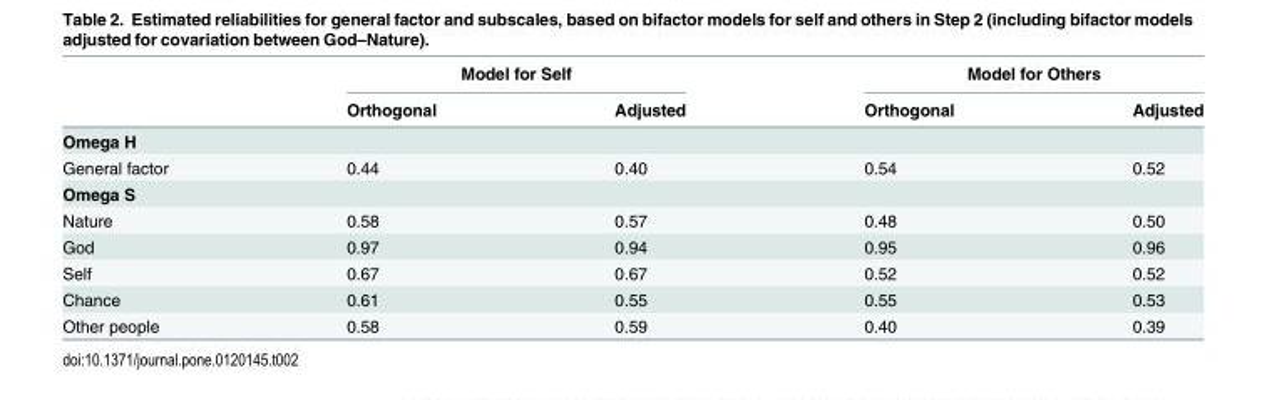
<table><thead><tr><td rowspan="2"></td><td colspan="2">Model for Self</td><td colspan="2">Model for Others</td></tr><tr><td>Orthogonal</td><td>Adjusted</td><td>Orthogonal</td><td>Adjusted</td></tr></thead><tbody><tr><td colspan="5">Omega H</td></tr><tr><td>General factor</td><td>0.44</td><td>0.40</td><td>0.54</td><td>0.52</td></tr><tr><td colspan="5">Omega S</td></tr><tr><td>Nature</td><td>0.58</td><td>0.57</td><td>0.48</td><td>0.50</td></tr><tr><td>God</td><td>0.97</td><td>0.94</td><td>0.95</td><td>0.96</td></tr><tr><td>Self</td><td>0.67</td><td>0.67</td><td>0.52</td><td>0.52</td></tr><tr><td>Chance</td><td>0.61</td><td>0.55</td><td>0.55</td><td>0.53</td></tr><tr><td>Other people</td><td>0.58</td><td>0.59</td><td>0.40</td><td>0.39</td></tr></tbody></table>